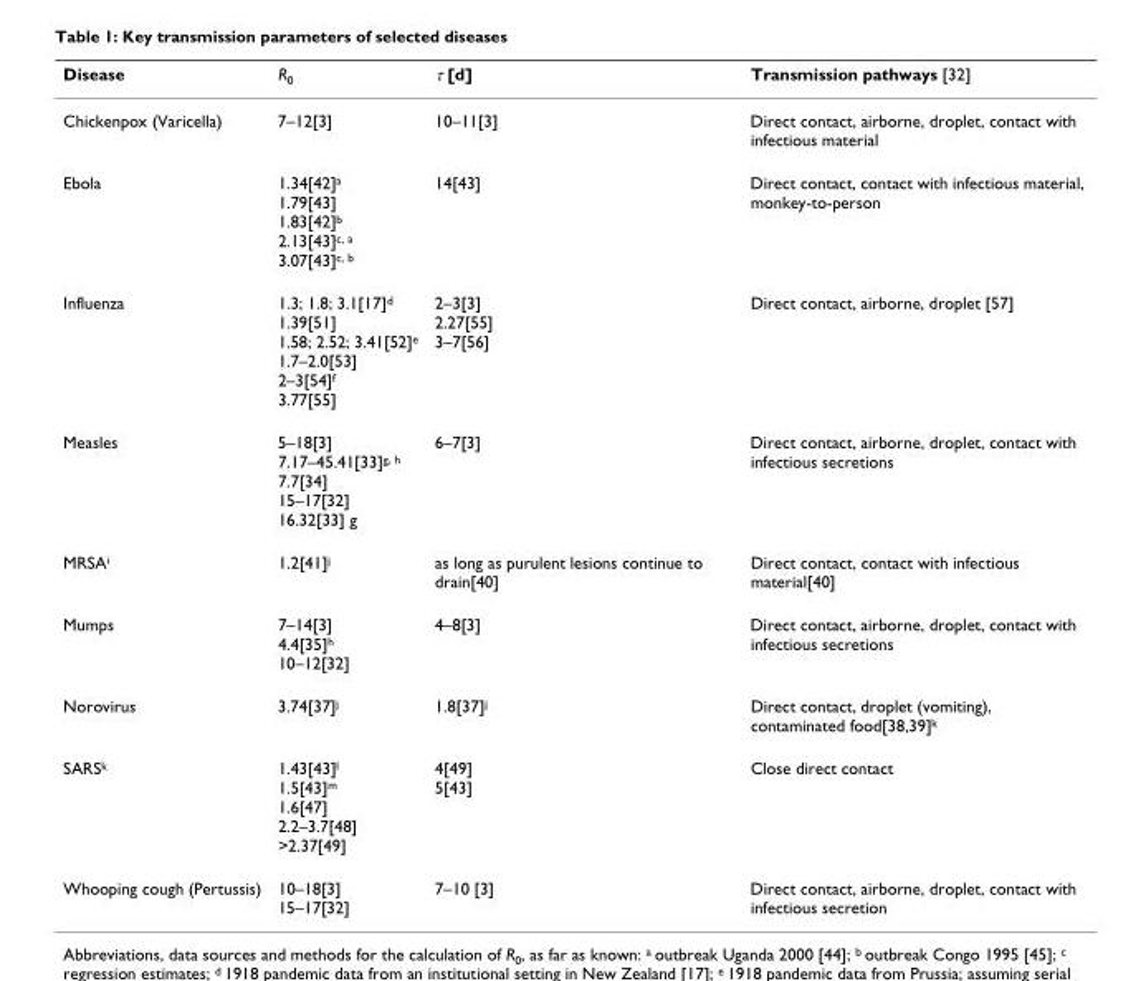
<table><thead><tr><td>Disease</td><td>R<sub>0</sub></td><td>τ [d]</td><td>Transmission pathways [32]</td></tr></thead><tbody><tr><td>Chickenpox (Varicella)</td><td>7–12[3]</td><td>10–11[3]</td><td>Direct contact, airborne, droplet, contact with infectious material</td></tr><tr><td>Ebola</td><td>1.34[42]<sup>a</sup> 1.79[43] 1.83[42]<sup>b</sup> 2.13[43]<sup>c, a</sup> 3.07[43]<sup>c, b</sup></td><td>14[43]</td><td>Direct contact, contact with infectious material, monkey-to-person</td></tr><tr><td>Influenza</td><td>1.3; 1.8; 3.1[17]<sup>d</sup> 1.39[51] 1.58; 2.52; 3.41[52]<sup>e</sup> 1.7–2.0[53] 2–3[54]<sup>f</sup> 3.77[55]</td><td>2–3[3] 2.27[55] 3–7[56]</td><td>Direct contact, airborne, droplet [57]</td></tr><tr><td>Measles</td><td>5–18[3] 7.17–45.41[33]<sup>g, h</sup> 7.7[34] 15–17[32] 16.32[33] g</td><td>6–7[3]</td><td>Direct contact, airborne, droplet, contact with infectious secretions</td></tr><tr><td>MRSA<sup>i</sup></td><td>1.2[41]<sup>j</sup></td><td>as long as purulent lesions continue to drain[40]</td><td>Direct contact, contact with infectious material[40]</td></tr><tr><td>Mumps</td><td>7–14[3] 4.4[35]<sup>h</sup> 10–12[32]</td><td>4–8[3]</td><td>Direct contact, airborne, droplet, contact with infectious secretions</td></tr><tr><td>Norovirus</td><td>3.74[37]<sup>j</sup></td><td>1.8[37]<sup>j</sup></td><td>Direct contact, droplet (vomiting), contaminated food[38,39]<sup>k</sup></td></tr><tr><td>SARS<sup>k</sup></td><td>1.43[43]<sup>l</sup> 1.5[43]<sup>m</sup> 1.6[47] 2.2–3.7[48] &gt;2.37[49]</td><td>4[49] 5[43]</td><td>Close direct contact</td></tr><tr><td>Whooping cough (Pertussis)</td><td>10–18[3] 15–17[32]</td><td>7–10 [3]</td><td>Direct contact, airborne, droplet, contact with infectious secretion</td></tr></tbody></table>